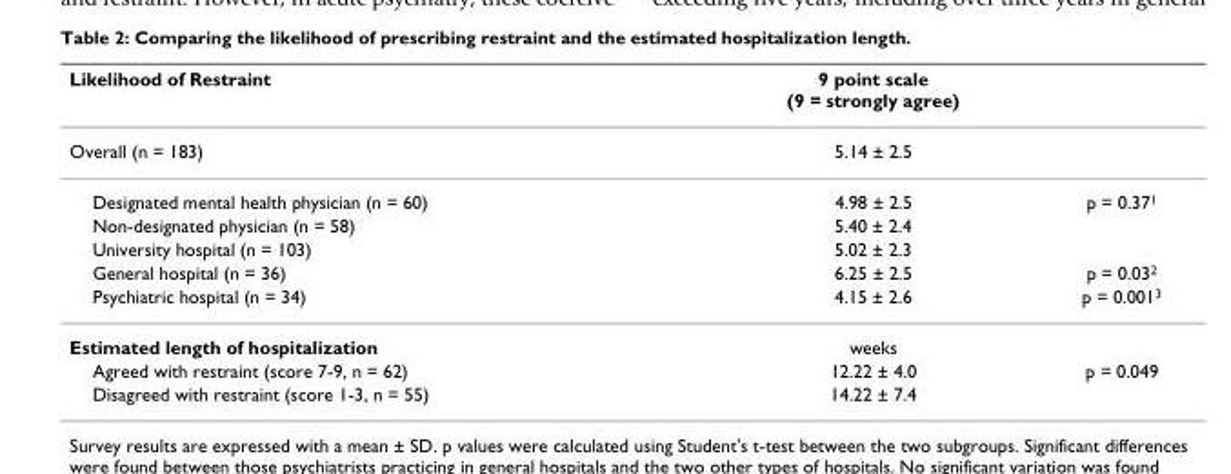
<table><thead><tr><td>Likelihood of Restraint</td><td>9 point scale (9 = strongly agree)</td><td></td></tr></thead><tbody><tr><td>Overall (n = 183)</td><td>5.14 ± 2.5</td><td></td></tr><tr><td>Designated mental health physician (n = 60)</td><td>4.98 ± 2.5</td><td>p = 0.37<sup>1</sup></td></tr><tr><td>Non-designated physician (n = 58)</td><td>5.40 ± 2.4</td><td></td></tr><tr><td>University hospital (n = 103)</td><td>5.02 ± 2.3</td><td></td></tr><tr><td>General hospital (n = 36)</td><td>6.25 ± 2.5</td><td>p = 0.03<sup>2</sup></td></tr><tr><td>Psychiatric hospital (n = 34)</td><td>4.15 ± 2.6</td><td>p = 0.001<sup>3</sup></td></tr><tr><td>Estimated length of hospitalization</td><td>weeks</td><td></td></tr><tr><td>Agreed with restraint (score 7-9, n = 62)</td><td>12.22 ± 4.0</td><td>p = 0.049</td></tr><tr><td>Disagreed with restraint (score 1-3, n = 55)</td><td>14.22 ± 7.4</td><td></td></tr></tbody></table>